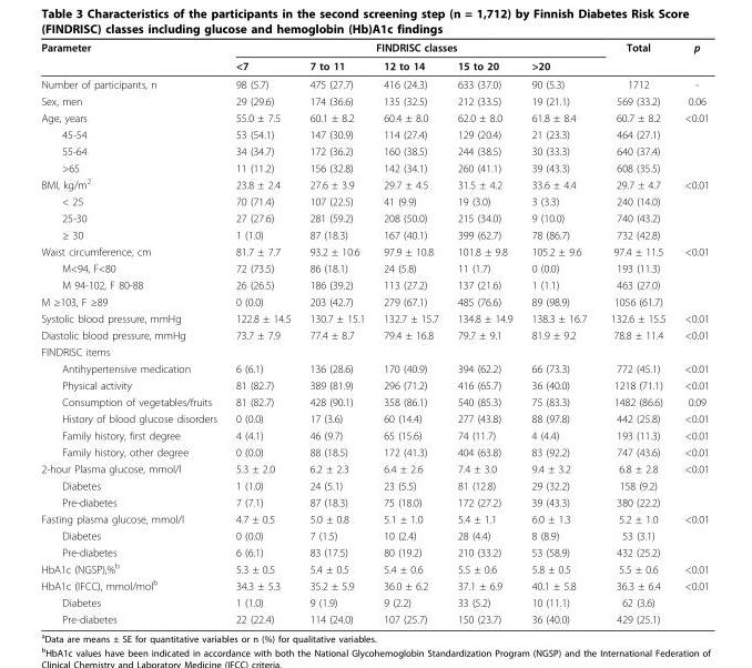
<table><thead><tr><td rowspan="2">Parameter</td><td colspan="5">FINDRISC classes</td><td rowspan="2">Total</td><td rowspan="2">p</td></tr><tr><td>&lt;7</td><td>7 to 11</td><td>12 to 14</td><td>15 to 20</td><td>&gt;20</td></tr></thead><tbody><tr><td>Number of participants, n</td><td>98 (5.7)</td><td>475 (27.7)</td><td>416 (24.3)</td><td>633 (37.0)</td><td>90 (5.3)</td><td>1712</td><td>-</td></tr><tr><td>Sex, men</td><td>29 (29.6)</td><td>174 (36.6)</td><td>135 (32.5)</td><td>212 (33.5)</td><td>19 (21.1)</td><td>569 (33.2)</td><td>0.06</td></tr><tr><td>Age, years</td><td>55.0 ± 7.5</td><td>60.1 ± 8.2</td><td>60.4 ± 8.0</td><td>62.0 ± 8.0</td><td>61.8 ± 8.4</td><td>60.7 ± 8.2</td><td>&lt;0.01</td></tr><tr><td>45-54</td><td>53 (54.1)</td><td>147 (30.9)</td><td>114 (27.4)</td><td>129 (20.4)</td><td>21 (23.3)</td><td>464 (27.1)</td><td></td></tr><tr><td>55-64</td><td>34 (34.7)</td><td>172 (36.2)</td><td>160 (38.5)</td><td>244 (38.5)</td><td>30 (33.3)</td><td>640 (37.4)</td><td></td></tr><tr><td>&gt;65</td><td>11 (11.2)</td><td>156 (32.8)</td><td>142 (34.1)</td><td>260 (41.1)</td><td>39 (43.3)</td><td>608 (35.5)</td><td></td></tr><tr><td>BMI, kg/m<sup>2</sup></td><td>23.8 ± 2.4</td><td>27.6 ± 3.9</td><td>29.7 ± 4.5</td><td>31.5 ± 4.2</td><td>33.6 ± 4.4</td><td>29.7 ± 4.7</td><td>&lt;0.01</td></tr><tr><td>&lt; 25</td><td>70 (71.4)</td><td>107 (22.5)</td><td>41 (9.9)</td><td>19 (3.0)</td><td>3 (3.3)</td><td>240 (14.0)</td><td></td></tr><tr><td>25-30</td><td>27 (27.6)</td><td>281 (59.2)</td><td>208 (50.0)</td><td>215 (34.0)</td><td>9 (10.0)</td><td>740 (43.2)</td><td></td></tr><tr><td>≥ 30</td><td>1 (1.0)</td><td>87 (18.3)</td><td>167 (40.1)</td><td>399 (62.7)</td><td>78 (86.7)</td><td>732 (42.8)</td><td></td></tr><tr><td>Waist circumference, cm</td><td>81.7 ± 7.7</td><td>93.2 ± 10.6</td><td>97.9 ± 10.8</td><td>101.8 ± 9.8</td><td>105.2 ± 9.6</td><td>97.4 ± 11.5</td><td>&lt;0.01</td></tr><tr><td>M&lt;94, F&lt;80</td><td>72 (73.5)</td><td>86 (18.1)</td><td>24 (5.8)</td><td>11 (1.7)</td><td>0 (0.0)</td><td>193 (11.3)</td><td></td></tr><tr><td>M 94-102, F 80-88</td><td>26 (26.5)</td><td>186 (39.2)</td><td>113 (27.2)</td><td>137 (21.6)</td><td>1 (1.1)</td><td>463 (27.0)</td><td></td></tr><tr><td>M ≥103, F ≥89</td><td>0 (0.0)</td><td>203 (42.7)</td><td>279 (67.1)</td><td>485 (76.6)</td><td>89 (98.9)</td><td>1056 (61.7)</td><td></td></tr><tr><td>Systolic blood pressure, mmHg</td><td>122.8 ± 14.5</td><td>130.7 ± 15.1</td><td>132.7 ± 15.7</td><td>134.8 ± 14.9</td><td>138.3 ± 16.7</td><td>132.6 ± 15.5</td><td>&lt;0.01</td></tr><tr><td>Diastolic blood pressure, mmHg</td><td>73.7 ± 7.9</td><td>77.4 ± 8.7</td><td>79.4 ± 16.8</td><td>79.7 ± 9.1</td><td>81.9 ± 9.2</td><td>78.8 ± 11.4</td><td>&lt;0.01</td></tr><tr><td colspan="8">FINDRISC items</td></tr><tr><td>Antihypertensive medication</td><td>6 (6.1)</td><td>136 (28.6)</td><td>170 (40.9)</td><td>394 (62.2)</td><td>66 (73.3)</td><td>772 (45.1)</td><td>&lt;0.01</td></tr><tr><td>Physical activity</td><td>81 (82.7)</td><td>389 (81.9)</td><td>296 (71.2)</td><td>416 (65.7)</td><td>36 (40.0)</td><td>1218 (71.1)</td><td>&lt;0.01</td></tr><tr><td>Consumption of vegetables/fruits</td><td>81 (82.7)</td><td>428 (90.1)</td><td>358 (86.1)</td><td>540 (85.3)</td><td>75 (83.3)</td><td>1482 (86.6)</td><td>0.09</td></tr><tr><td>History of blood glucose disorders</td><td>0 (0.0)</td><td>17 (3.6)</td><td>60 (14.4)</td><td>277 (43.8)</td><td>88 (97.8)</td><td>442 (25.8)</td><td>&lt;0.01</td></tr><tr><td>Family history, first degree</td><td>4 (4.1)</td><td>46 (9.7)</td><td>65 (15.6)</td><td>74 (11.7)</td><td>4 (4.4)</td><td>193 (11.3)</td><td>&lt;0.01</td></tr><tr><td>Family history, other degree</td><td>0 (0.0)</td><td>88 (18.5)</td><td>172 (41.3)</td><td>404 (63.8)</td><td>83 (92.2)</td><td>747 (43.6)</td><td>&lt;0.01</td></tr><tr><td>2-hour Plasma glucose, mmol/l</td><td>5.3 ± 2.0</td><td>6.2 ± 2.3</td><td>6.4 ± 2.6</td><td>7.4 ± 3.0</td><td>9.4 ± 3.2</td><td>6.8 ± 2.8</td><td>&lt;0.01</td></tr><tr><td>Diabetes</td><td>1 (1.0)</td><td>24 (5.1)</td><td>23 (5.5)</td><td>81 (12.8)</td><td>29 (32.2)</td><td>158 (9.2)</td><td></td></tr><tr><td>Pre-diabetes</td><td>7 (7.1)</td><td>87 (18.3)</td><td>75 (18.0)</td><td>172 (27.2)</td><td>39 (43.3)</td><td>380 (22.2)</td><td></td></tr><tr><td>Fasting plasma glucose, mmol/l</td><td>4.7 ± 0.5</td><td>5.0 ± 0.8</td><td>5.1 ± 1.0</td><td>5.4 ± 1.1</td><td>6.0 ± 1.3</td><td>5.2 ± 1.0</td><td>&lt;0.01</td></tr><tr><td>Diabetes</td><td>0 (0.0)</td><td>7 (1.5)</td><td>10 (2.4)</td><td>28 (4.4)</td><td>8 (8.9)</td><td>53 (3.1)</td><td></td></tr><tr><td>Pre-diabetes</td><td>6 (6.1)</td><td>83 (17.5)</td><td>80 (19.2)</td><td>210 (33.2)</td><td>53 (58.9)</td><td>432 (25.2)</td><td></td></tr><tr><td>HbA1c (NGSP),%<sup>b</sup></td><td>5.3 ± 0.5</td><td>5.4 ± 0.5</td><td>5.4 ± 0.6</td><td>5.5 ± 0.6</td><td>5.8 ± 0.5</td><td>5.5 ± 0.6</td><td>&lt;0.01</td></tr><tr><td>HbA1c (IFCC), mmol/mol<sup>b</sup></td><td>34.3 ± 5.3</td><td>35.2 ± 5.9</td><td>36.0 ± 6.2</td><td>37.1 ± 6.9</td><td>40.1 ± 5.8</td><td>36.3 ± 6.4</td><td>&lt;0.01</td></tr><tr><td>Diabetes</td><td>1 (1.0)</td><td>9 (1.9)</td><td>9 (2.2)</td><td>33 (5.2)</td><td>10 (11.1)</td><td>62 (3.6)</td><td></td></tr><tr><td>Pre-diabetes</td><td>22 (22.4)</td><td>114 (24.0)</td><td>107 (25.7)</td><td>150 (23.7)</td><td>36 (40.0)</td><td>429 (25.1)</td><td></td></tr></tbody></table>